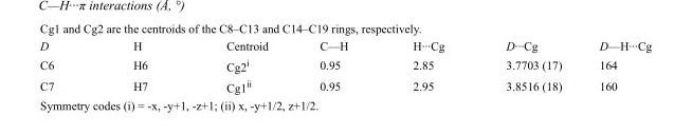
<table><tbody><tr><td>D</td><td>H</td><td>Centroid</td><td>C—H</td><td>H···Cg</td><td>D···Cg</td><td>D—H···Cg</td></tr><tr><td>C6</td><td>H6</td><td>Cg2<sup>i</sup></td><td>0.95</td><td>2.85</td><td>3.7703 (17)</td><td>164</td></tr><tr><td>C7</td><td>H7</td><td>Cg1<sup>ii</sup></td><td>0.95</td><td>2.95</td><td>3.8516 (18)</td><td>160</td></tr></tbody></table>